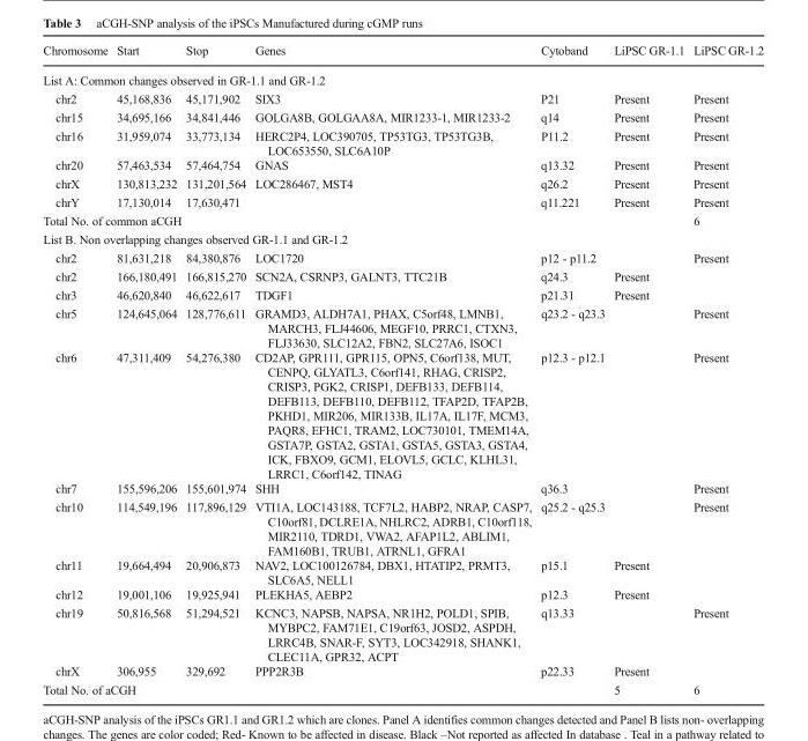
<table><thead><tr><td>Chromosome</td><td>Start</td><td>Stop</td><td>Genes</td><td>Cytoband</td><td>LiPSC GR-1.1</td><td>LiPSC GR-1.2</td></tr></thead><tbody><tr><td colspan="7">List A: Common changes observed in GR-1.1 and GR-1.2</td></tr><tr><td>chr2</td><td>45,168,836</td><td>45,171,902</td><td>SIX3</td><td>P21</td><td>Present</td><td>Present</td></tr><tr><td>chr15</td><td>34,695,166</td><td>34,841,446</td><td>GOLGA8B, GOLGAA8A, MIR1233-1, MIR1233-2</td><td>q14</td><td>Present</td><td>Present</td></tr><tr><td>chr16</td><td>31,959,074</td><td>33,773,134</td><td>HERC2P4, LOC390705, TP53TG3, TP53TG3B, LOC653550, SLC6A10P</td><td>P11.2</td><td>Present</td><td>Present</td></tr><tr><td>chr20</td><td>57,463,534</td><td>57,464,754</td><td>GNAS</td><td>q13.32</td><td>Present</td><td>Present</td></tr><tr><td>chrX</td><td>130,813,232</td><td>131,201,564</td><td>LOC286467, MST4</td><td>q26.2</td><td>Present</td><td>Present</td></tr><tr><td>chrY</td><td>17,130,014</td><td>17,630,471</td><td></td><td>q11.221</td><td>Present</td><td>Present</td></tr><tr><td colspan="6">Total No. of common aCGH</td><td>6</td></tr><tr><td colspan="7">List B. Non overlapping changes observed GR-1.1 and GR-1.2</td></tr><tr><td>chr2</td><td>81,631,218</td><td>84,380,876</td><td>LOC1720</td><td>p12 - p11.2</td><td></td><td>Present</td></tr><tr><td>chr2</td><td>166,180,491</td><td>166,815,270</td><td>SCN2A, CSRNP3, GALNT3, TTC21B</td><td>q24.3</td><td>Present</td><td></td></tr><tr><td>chr3</td><td>46,620,840</td><td>46,622,617</td><td>TDGF1</td><td>p21.31</td><td>Present</td><td></td></tr><tr><td>chr5</td><td>124,645,064</td><td>128,776,611</td><td>GRAMD3, ALDH7A1, PHAX, C5orf48, LMNB1, MARCH3, FLJ44606, MEGF10, PRRC1, CTXN3, FLJ33630, SLC12A2, FBN2, SLC27A6, ISOC1</td><td>q23.2 - q23.3</td><td></td><td>Present</td></tr><tr><td>chr6</td><td>47,311,409</td><td>54,276,380</td><td>CD2AP, GPR111, GPR115, OPN5, C6orf138, MUT, CENPQ, GLYATL3, C6orf141, RHAG, CRISP2, CRISP3, PGK2, CRISP1, DEFB133, DEFB114, DEFB113, DEFB110, DEFB112, TFAP2D, TFAP2B, PKHD1, MIR206, MIR133B, IL17A, IL17F, MCM3, PAQR8, EFHC1, TRAM2, LOC730101, TMEM14A, GSTA7P, GSTA2, GSTA1, GSTA5, GSTA3, GSTA4, ICK, FBXO9, GCM1, ELOVL5, GCLC, KLHL31, LRRC1, C6orf142, TINAG</td><td>p12.3 - p12.1</td><td></td><td>Present</td></tr><tr><td>chr7</td><td>155,596,206</td><td>155,601,974</td><td>SHH</td><td>q36.3</td><td></td><td>Present</td></tr><tr><td>chr10</td><td>114,549,196</td><td>117,896,129</td><td>VTI1A, LOC143188, TCF7L2, HABP2, NRAP, CASP7, C10orf81, DCLRE1A, NHLRC2, ADRB1, C10orf118, MIR2110, TDRD1, VWA2, AFAP1L2, ABLIM1, FAM160B1, TRUB1, ATRNL1, GFRA1</td><td>q25.2 - q25.3</td><td></td><td>Present</td></tr><tr><td>chr11</td><td>19,664,494</td><td>20,906,873</td><td>NAV2, LOC100126784, DBX1, HTATIP2, PRMT3, SLC6A5, NELL1</td><td>p15.1</td><td>Present</td><td></td></tr><tr><td>chr12</td><td>19,001,106</td><td>19,925,941</td><td>PLEKHA5, AEBP2</td><td>p12.3</td><td>Present</td><td></td></tr><tr><td>chr19</td><td>50,816,568</td><td>51,294,521</td><td>KCNC3, NAPSB, NAPSA, NR1H2, POLD1, SPIB, MYBPC2, FAM71E1, C19orf63, JOSD2, ASPDH, LRRC4B, SNAR-F, SYT3, LOC342918, SHANK1, CLEC11A, GPR32, ACPT</td><td>q13.33</td><td></td><td>Present</td></tr><tr><td>chrX</td><td>306,955</td><td>329,692</td><td>PPP2R3B</td><td>p22.33</td><td>Present</td><td></td></tr><tr><td colspan="5">Total No. of aCGH</td><td>5</td><td>6</td></tr></tbody></table>